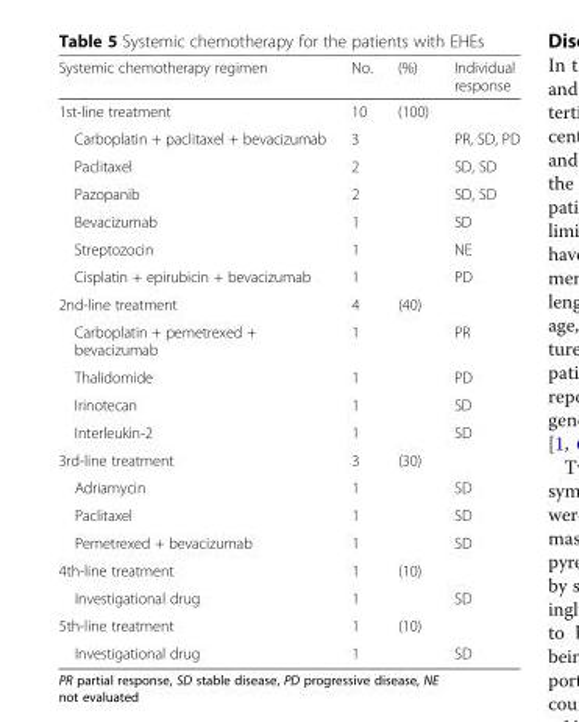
<table><thead><tr><td>Systemic chemotherapy regimen</td><td>No.</td><td>(%)</td><td>Individual response</td></tr></thead><tbody><tr><td>1st-line treatment</td><td>10</td><td>(100)</td><td></td></tr><tr><td>Carboplatin + paclitaxel + bevacizumab</td><td>3</td><td></td><td>PR, SD, PD</td></tr><tr><td>Paclitaxel</td><td>2</td><td></td><td>SD, SD</td></tr><tr><td>Pazopanib</td><td>2</td><td></td><td>SD, SD</td></tr><tr><td>Bevacizumab</td><td>1</td><td></td><td>SD</td></tr><tr><td>Streptozocin</td><td>1</td><td></td><td>NE</td></tr><tr><td>Cisplatin + epirubicin + bevacizumab</td><td>1</td><td></td><td>PD</td></tr><tr><td>2nd-line treatment</td><td>4</td><td>(40)</td><td></td></tr><tr><td>Carboplatin + pemetrexed + bevacizumab</td><td>1</td><td></td><td>PR</td></tr><tr><td>Thalidomide</td><td>1</td><td></td><td>PD</td></tr><tr><td>Irinotecan</td><td>1</td><td></td><td>SD</td></tr><tr><td>Interleukin-2</td><td>1</td><td></td><td>SD</td></tr><tr><td>3rd-line treatment</td><td>3</td><td>(30)</td><td></td></tr><tr><td>Adriamycin</td><td>1</td><td></td><td>SD</td></tr><tr><td>Paclitaxel</td><td>1</td><td></td><td>SD</td></tr><tr><td>Pemetrexed + bevacizumab</td><td>1</td><td></td><td>SD</td></tr><tr><td>4th-line treatment</td><td>1</td><td>(10)</td><td></td></tr><tr><td>Investigational drug</td><td>1</td><td></td><td>SD</td></tr><tr><td>5th-line treatment</td><td>1</td><td>(10)</td><td></td></tr><tr><td>Investigational drug</td><td>1</td><td></td><td>SD</td></tr></tbody></table>